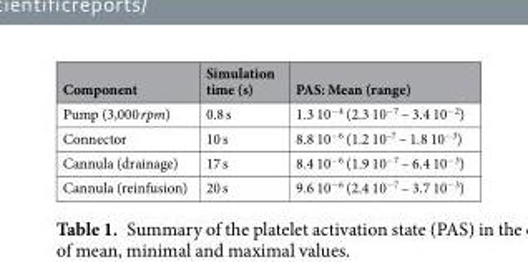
<table><thead><tr><td>Component</td><td>Simulation time (s)</td><td>PAS: Mean (range)</td></tr></thead><tbody><tr><td>Pump (3,000 rpm)</td><td>0.8 s</td><td>1.3 10<sup>−4</sup> (2.3 10<sup>−7</sup> – 3.4 10<sup>−2</sup>)</td></tr><tr><td>Connector</td><td>10 s</td><td>8.8 10<sup>−6</sup> (1.2 10<sup>–7</sup> – 1.8 10<sup>−3</sup>)</td></tr><tr><td>Cannula (drainage)</td><td>17 s</td><td>8.4 10<sup>−6</sup> (1.9 10<sup>−7</sup> – 6.4 10<sup>−3</sup>)</td></tr><tr><td>Cannula (reinfusion)</td><td>20 s</td><td>9.6 10<sup>−6</sup> (2.4 10<sup>−7</sup> – 3.7 10<sup>−3</sup>)</td></tr></tbody></table>